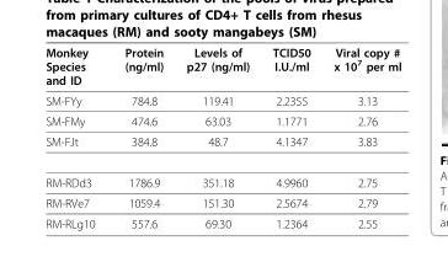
<table><thead><tr><td>Monkey Species and ID</td><td>Protein (ng/ml)</td><td>Levels of p27 (ng/ml)</td><td>TCID50 I.U./ml</td><td>Viral copy # x 10<sup>7</sup> per ml</td></tr></thead><tbody><tr><td>SM-FYy</td><td>784.8</td><td>119.41</td><td>2.2355</td><td>3.13</td></tr><tr><td>SM-FMy</td><td>474.6</td><td>63.03</td><td>1.1771</td><td>2.76</td></tr><tr><td>SM-FJt</td><td>384.8</td><td>48.7</td><td>4.1347</td><td>3.83</td></tr><tr><td>RM-RDd3</td><td>1786.9</td><td>351.18</td><td>4.9960</td><td>2.75</td></tr><tr><td>RM-RVe7</td><td>1059.4</td><td>151.30</td><td>2.5674</td><td>2.79</td></tr><tr><td>RM-RLg10</td><td>557.6</td><td>69.30</td><td>1.2364</td><td>2.55</td></tr></tbody></table>